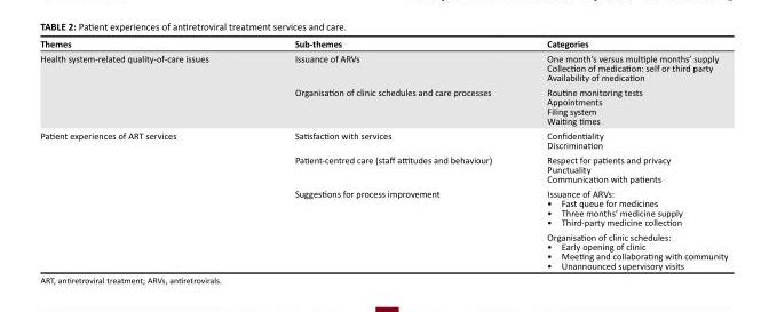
<table><thead><tr><td>Themes</td><td>Sub-themes</td><td>Categories</td></tr></thead><tbody><tr><td rowspan="2">Health system-related quality-of-care issues</td><td>Issuance of ARVs</td><td>One month’s versus multiple months’ supply Collection of medication: self or third party Availability of medication</td></tr><tr><td>Organisation of clinic schedules and care processes</td><td>Routine monitoring tests Appointments Filing system Waiting times</td></tr><tr><td rowspan="4">Patient experiences of ART services</td><td>Satisfaction with services</td><td>Confidentiality Discrimination</td></tr><tr><td>Patient-centred care (staff attitudes and behaviour)</td><td>Respect for patients and privacy Punctuality Communication with patients</td></tr><tr><td>Suggestions for process improvement</td><td>Issuance of ARVs: • Fast queue for medicines • Three months’ medicine supply • Third-party medicine collection</td></tr><tr><td></td><td>Organisation of clinic schedules: • Early opening of clinic • Meeting and collaborating with community • Unannounced supervisory visits</td></tr></tbody></table>